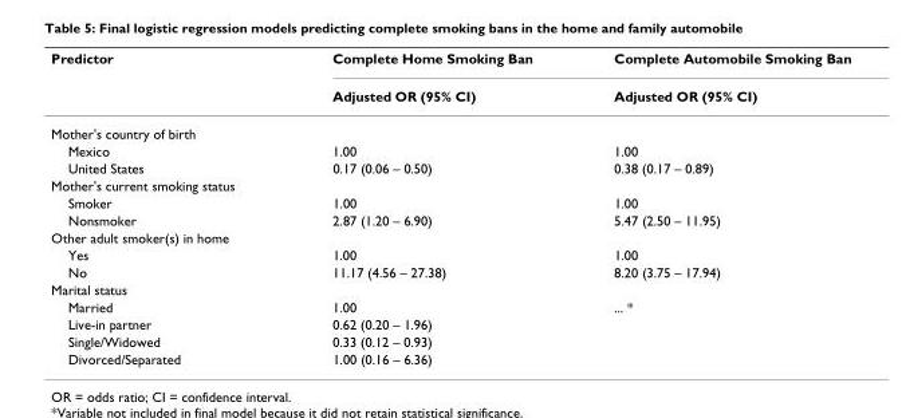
<table><thead><tr><td rowspan="2">Predictor</td><td rowspan="2">Complete Home Smoking Ban Adjusted OR (95% CI)</td><td rowspan="2">Complete Automobile Smoking Ban Adjusted OR (95% CI)</td></tr><tr></tr></thead><tbody><tr><td colspan="3">Mother&#x27;s country of birth</td></tr><tr><td>Mexico</td><td>1.00</td><td>1.00</td></tr><tr><td>United States</td><td>0.17 (0.06 – 0.50)</td><td>0.38 (0.17 – 0.89)</td></tr><tr><td colspan="3">Mother&#x27;s current smoking status</td></tr><tr><td>Smoker</td><td>1.00</td><td>1.00</td></tr><tr><td>Nonsmoker</td><td>2.87 (1.20 – 6.90)</td><td>5.47 (2.50 – 11.95)</td></tr><tr><td colspan="3">Other adult smoker(s) in home</td></tr><tr><td>Yes</td><td>1.00</td><td>1.00</td></tr><tr><td>No</td><td>11.17 (4.56 – 27.38)</td><td>8.20 (3.75 – 17.94)</td></tr><tr><td colspan="3">Marital status</td></tr><tr><td>Married</td><td>1.00</td><td>... *</td></tr><tr><td>Live-in partner</td><td>0.62 (0.20 – 1.96)</td><td></td></tr><tr><td>Single/Widowed</td><td>0.33 (0.12 – 0.93)</td><td></td></tr><tr><td>Divorced/Separated</td><td>1.00 (0.16 – 6.36)</td><td></td></tr></tbody></table>